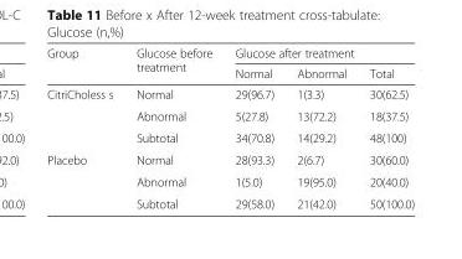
<table><thead><tr><td rowspan="2">Group</td><td rowspan="2">Glucose before treatment</td><td colspan="3">Glucose after treatment</td></tr><tr><td>Normal</td><td>Abnormal</td><td>Total</td></tr></thead><tbody><tr><td rowspan="3">CitriCholess s</td><td>Normal</td><td>29(96.7)</td><td>1(3.3)</td><td>30(62.5)</td></tr><tr><td>Abnormal</td><td>5(27.8)</td><td>13(72.2)</td><td>18(37.5)</td></tr><tr><td>Subtotal</td><td>34(70.8)</td><td>14(29.2)</td><td>48(100)</td></tr><tr><td rowspan="3">Placebo</td><td>Normal</td><td>28(93.3)</td><td>2(6.7)</td><td>30(60.0)</td></tr><tr><td>Abnormal</td><td>1(5.0)</td><td>19(95.0)</td><td>20(40.0)</td></tr><tr><td>Subtotal</td><td>29(58.0)</td><td>21(42.0)</td><td>50(100.0)</td></tr></tbody></table>